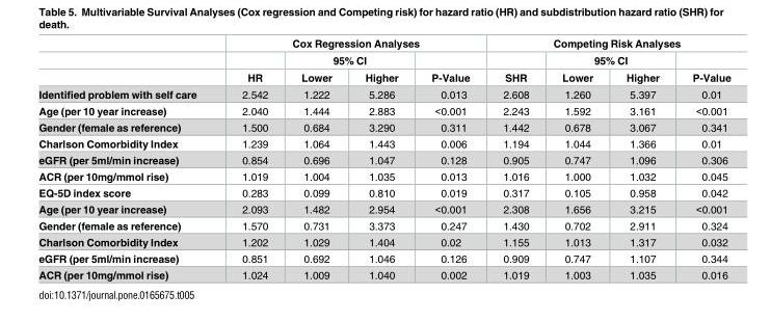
<table><thead><tr><td rowspan="3"></td><td colspan="4">Cox Regression Analyses</td><td colspan="4">Competing Risk Analyses</td></tr><tr><td rowspan="2">HR</td><td colspan="2">95% CI</td><td rowspan="2">P-Value</td><td rowspan="2">SHR</td><td colspan="2">95% CI</td><td rowspan="2">P-Value</td></tr><tr><td>Lower</td><td>Higher</td><td>Lower</td><td>Higher</td></tr></thead><tbody><tr><td>Identified problem with self care</td><td>2.542</td><td>1.222</td><td>5.286</td><td>0.013</td><td>2.608</td><td>1.260</td><td>5.397</td><td>0.01</td></tr><tr><td>Age (per 10 year increase)</td><td>2.040</td><td>1.444</td><td>2.883</td><td>&lt;0.001</td><td>2.243</td><td>1.592</td><td>3.161</td><td>&lt;0.001</td></tr><tr><td>Gender (female as reference)</td><td>1.500</td><td>0.684</td><td>3.290</td><td>0.311</td><td>1.442</td><td>0.678</td><td>3.067</td><td>0.341</td></tr><tr><td>Charlson Comorbidity Index</td><td>1.239</td><td>1.064</td><td>1.443</td><td>0.006</td><td>1.194</td><td>1.044</td><td>1.366</td><td>0.01</td></tr><tr><td>eGFR (per 5ml/min increase)</td><td>0.854</td><td>0.696</td><td>1.047</td><td>0.128</td><td>0.905</td><td>0.747</td><td>1.096</td><td>0.306</td></tr><tr><td>ACR (per 10mg/mmol rise)</td><td>1.019</td><td>1.004</td><td>1.035</td><td>0.013</td><td>1.016</td><td>1.000</td><td>1.032</td><td>0.045</td></tr><tr><td>EQ-5D index score</td><td>0.283</td><td>0.099</td><td>0.810</td><td>0.019</td><td>0.317</td><td>0.105</td><td>0.958</td><td>0.042</td></tr><tr><td>Age (per 10 year increase)</td><td>2.093</td><td>1.482</td><td>2.954</td><td>&lt;0.001</td><td>2.308</td><td>1.656</td><td>3.215</td><td>&lt;0.001</td></tr><tr><td>Gender (female as reference)</td><td>1.570</td><td>0.731</td><td>3.373</td><td>0.247</td><td>1.430</td><td>0.702</td><td>2.911</td><td>0.324</td></tr><tr><td>Charlson Comorbidity Index</td><td>1.202</td><td>1.029</td><td>1.404</td><td>0.02</td><td>1.155</td><td>1.013</td><td>1.317</td><td>0.032</td></tr><tr><td>eGFR (per 5ml/min increase)</td><td>0.851</td><td>0.692</td><td>1.046</td><td>0.126</td><td>0.909</td><td>0.747</td><td>1.107</td><td>0.344</td></tr><tr><td>ACR (per 10mg/mmol rise)</td><td>1.024</td><td>1.009</td><td>1.040</td><td>0.002</td><td>1.019</td><td>1.003</td><td>1.035</td><td>0.016</td></tr></tbody></table>